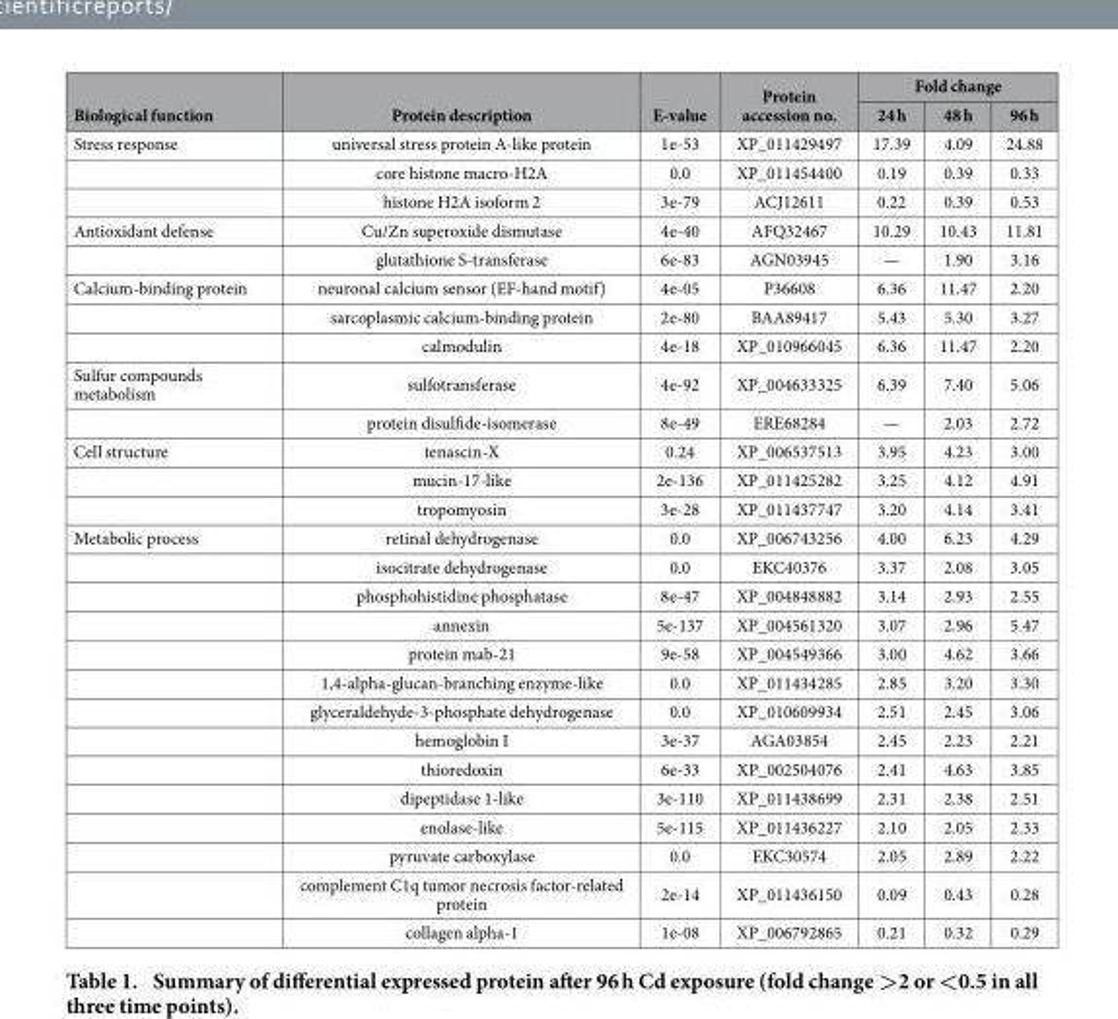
<table><thead><tr><td rowspan="2">Biological function</td><td rowspan="2">Protein description</td><td rowspan="2">E-value</td><td rowspan="2">Protein accession no.</td><td colspan="3">Fold change</td></tr><tr><td>24 h</td><td>48 h</td><td>96 h</td></tr></thead><tbody><tr><td rowspan="3">Stress response</td><td>universal stress protein A-like protein</td><td>1e-53</td><td>XP_011429497</td><td>17.39</td><td>4.09</td><td>24.88</td></tr><tr><td>core histone macro-H2A</td><td>0.0</td><td>XP_011454400</td><td>0.19</td><td>0.39</td><td>0.33</td></tr><tr><td>histone H2A isoform 2</td><td>3e-79</td><td>ACJ12611</td><td>0.22</td><td>0.39</td><td>0.53</td></tr><tr><td rowspan="2">Antioxidant defense</td><td>Cu/Zn superoxide dismutase</td><td>4e-40</td><td>AFQ32467</td><td>10.29</td><td>10.43</td><td>11.81</td></tr><tr><td>glutathione S-transferase</td><td>6e-83</td><td>AGN03945</td><td>—</td><td>1.90</td><td>3.16</td></tr><tr><td rowspan="3">Calcium-binding protein</td><td>neuronal calcium sensor (EF-hand motif)</td><td>4e-05</td><td>P36608</td><td>6.36</td><td>11.47</td><td>2.20</td></tr><tr><td>sarcoplasmic calcium-binding protein</td><td>2e-80</td><td>BAA89417</td><td>5.43</td><td>5.30</td><td>3.27</td></tr><tr><td>calmodulin</td><td>4e-18</td><td>XP_010966045</td><td>6.36</td><td>11.47</td><td>2.20</td></tr><tr><td rowspan="2">Sulfur compounds metabolism</td><td>sulfotransferase</td><td>4e-92</td><td>XP_004633325</td><td>6.39</td><td>7.40</td><td>5.06</td></tr><tr><td>protein disulfide-isomerase</td><td>8e-49</td><td>ERE68284</td><td>—</td><td>2.03</td><td>2.72</td></tr><tr><td rowspan="3">Cell structure</td><td>tenascin-X</td><td>0.24</td><td>XP_006537513</td><td>3.95</td><td>4.23</td><td>3.00</td></tr><tr><td>mucin-17-like</td><td>2e-136</td><td>XP_011425282</td><td>3.25</td><td>4.12</td><td>4.91</td></tr><tr><td>tropomyosin</td><td>3e-28</td><td>XP_011437747</td><td>3.20</td><td>4.14</td><td>3.41</td></tr><tr><td rowspan="14">Metabolic process</td><td>retinal dehydrogenase</td><td>0.0</td><td>XP_006743256</td><td>4.00</td><td>6.23</td><td>4.29</td></tr><tr><td>isocitrate dehydrogenase</td><td>0.0</td><td>EKC40376</td><td>3.37</td><td>2.08</td><td>3.05</td></tr><tr><td>phosphohistidine phosphatase</td><td>8e-47</td><td>XP_004848882</td><td>3.14</td><td>2.93</td><td>2.55</td></tr><tr><td>annexin</td><td>5e-137</td><td>XP_004561320</td><td>3.07</td><td>2.96</td><td>5.47</td></tr><tr><td>protein mab-21</td><td>9e-58</td><td>XP_004549366</td><td>3.00</td><td>4.62</td><td>3.66</td></tr><tr><td>1,4-alpha-glucan-branching enzyme-like</td><td>0.0</td><td>XP_011434285</td><td>2.85</td><td>3.20</td><td>3.30</td></tr><tr><td>glyceraldehyde-3-phosphate dehydrogenase</td><td>0.0</td><td>XP_010609934</td><td>2.51</td><td>2.45</td><td>3.06</td></tr><tr><td>hemoglobin I</td><td>3e-37</td><td>AGA03854</td><td>2.45</td><td>2.23</td><td>2.21</td></tr><tr><td>thioredoxin</td><td>6e-33</td><td>XP_002504076</td><td>2.41</td><td>4.63</td><td>3.85</td></tr><tr><td>dipeptidase 1-like</td><td>3e-110</td><td>XP_011438699</td><td>2.31</td><td>2.38</td><td>2.51</td></tr><tr><td>enolase-like</td><td>5e-115</td><td>XP_011436227</td><td>2.10</td><td>2.05</td><td>2.33</td></tr><tr><td>pyruvate carboxylase</td><td>0.0</td><td>EKC30574</td><td>2.05</td><td>2.89</td><td>2.22</td></tr><tr><td>complement C1q tumor necrosis factor-related protein</td><td>2e-14</td><td>XP_011436150</td><td>0.09</td><td>0.43</td><td>0.28</td></tr><tr><td>collagen alpha-1</td><td>1e-08</td><td>XP_006792865</td><td>0.21</td><td>0.32</td><td>0.29</td></tr></tbody></table>